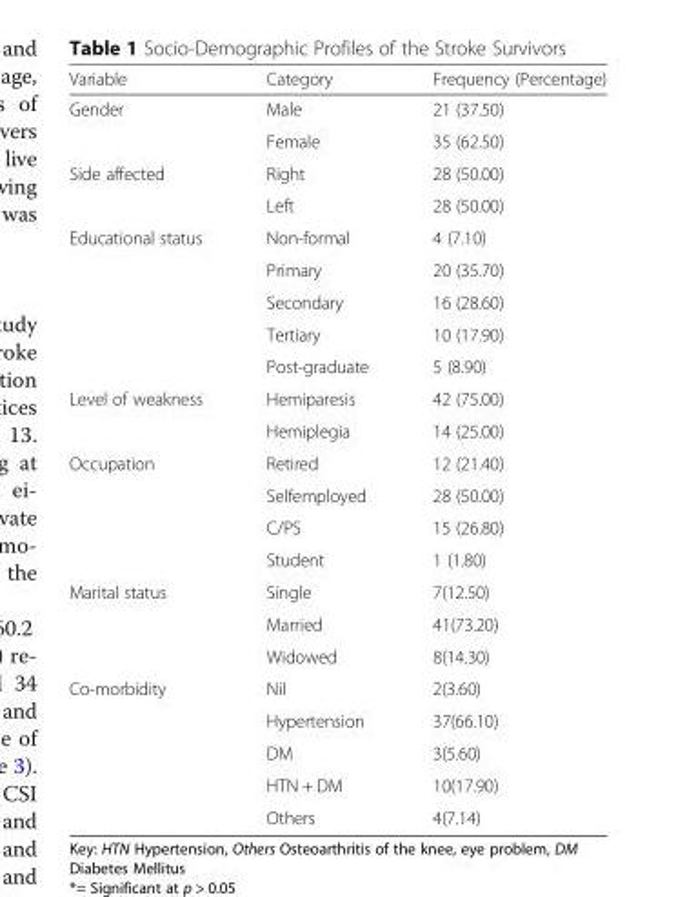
<table><thead><tr><td>Variable</td><td>Category</td><td>Frequency (Percentage)</td></tr></thead><tbody><tr><td rowspan="2">Gender</td><td>Male</td><td>21 (37.50)</td></tr><tr><td>Female</td><td>35 (62.50)</td></tr><tr><td rowspan="2">Side affected</td><td>Right</td><td>28 (50.00)</td></tr><tr><td>Left</td><td>28 (50.00)</td></tr><tr><td rowspan="5">Educational status</td><td>Non-formal</td><td>4 (7.10)</td></tr><tr><td>Primary</td><td>20 (35.70)</td></tr><tr><td>Secondary</td><td>16 (28.60)</td></tr><tr><td>Tertiary</td><td>10 (17.90)</td></tr><tr><td>Post-graduate</td><td>5 (8.90)</td></tr><tr><td rowspan="2">Level of weakness</td><td>Hemiparesis</td><td>42 (75.00)</td></tr><tr><td>Hemiplegia</td><td>14 (25.00)</td></tr><tr><td rowspan="4">Occupation</td><td>Retired</td><td>12 (21.40)</td></tr><tr><td>Selfemployed</td><td>28 (50.00)</td></tr><tr><td>C/PS</td><td>15 (26.80)</td></tr><tr><td>Student</td><td>1 (1.80)</td></tr><tr><td rowspan="3">Marital status</td><td>Single</td><td>7(12.50)</td></tr><tr><td>Married</td><td>41(73.20)</td></tr><tr><td>Widowed</td><td>8(14.30)</td></tr><tr><td rowspan="5">Co-morbidity</td><td>Nil</td><td>2(3.60)</td></tr><tr><td>Hypertension</td><td>37(66.10)</td></tr><tr><td>DM</td><td>3(5.60)</td></tr><tr><td>HTN + DM</td><td>10(17.90)</td></tr><tr><td>Others</td><td>4(7.14)</td></tr></tbody></table>